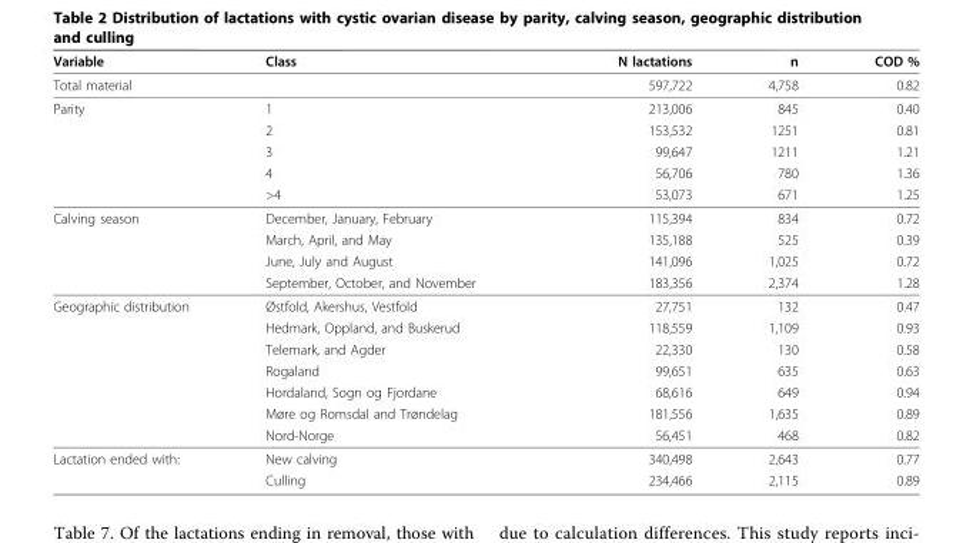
<table><thead><tr><td>Variable</td><td>Class</td><td>N lactations</td><td>n</td><td>COD %</td></tr></thead><tbody><tr><td>Total material</td><td></td><td>597,722</td><td>4,758</td><td>0.82</td></tr><tr><td rowspan="5">Parity</td><td>1</td><td>213,006</td><td>845</td><td>0.40</td></tr><tr><td>2</td><td>153,532</td><td>1251</td><td>0.81</td></tr><tr><td>3</td><td>99,647</td><td>1211</td><td>1.21</td></tr><tr><td>4</td><td>56,706</td><td>780</td><td>1.36</td></tr><tr><td>&gt;4</td><td>53,073</td><td>671</td><td>1.25</td></tr><tr><td rowspan="4">Calving season</td><td>December, January, February</td><td>115,394</td><td>834</td><td>0.72</td></tr><tr><td>March, April, and May</td><td>135,188</td><td>525</td><td>0.39</td></tr><tr><td>June, July and August</td><td>141,096</td><td>1,025</td><td>0.72</td></tr><tr><td>September, October, and November</td><td>183,356</td><td>2,374</td><td>1.28</td></tr><tr><td rowspan="7">Geographic distribution</td><td>Østfold, Akershus, Vestfold</td><td>27,751</td><td>132</td><td>0.47</td></tr><tr><td>Hedmark, Oppland, and Buskerud</td><td>118,559</td><td>1,109</td><td>0.93</td></tr><tr><td>Telemark, and Agder</td><td>22,330</td><td>130</td><td>0.58</td></tr><tr><td>Rogaland</td><td>99,651</td><td>635</td><td>0.63</td></tr><tr><td>Hordaland, Sogn og Fjordane</td><td>68,616</td><td>649</td><td>0.94</td></tr><tr><td>Møre og Romsdal and Trøndelag</td><td>181,556</td><td>1,635</td><td>0.89</td></tr><tr><td>Nord-Norge</td><td>56,451</td><td>468</td><td>0.82</td></tr><tr><td rowspan="2">Lactation ended with:</td><td>New calving</td><td>340,498</td><td>2,643</td><td>0.77</td></tr><tr><td>Culling</td><td>234,466</td><td>2,115</td><td>0.89</td></tr></tbody></table>